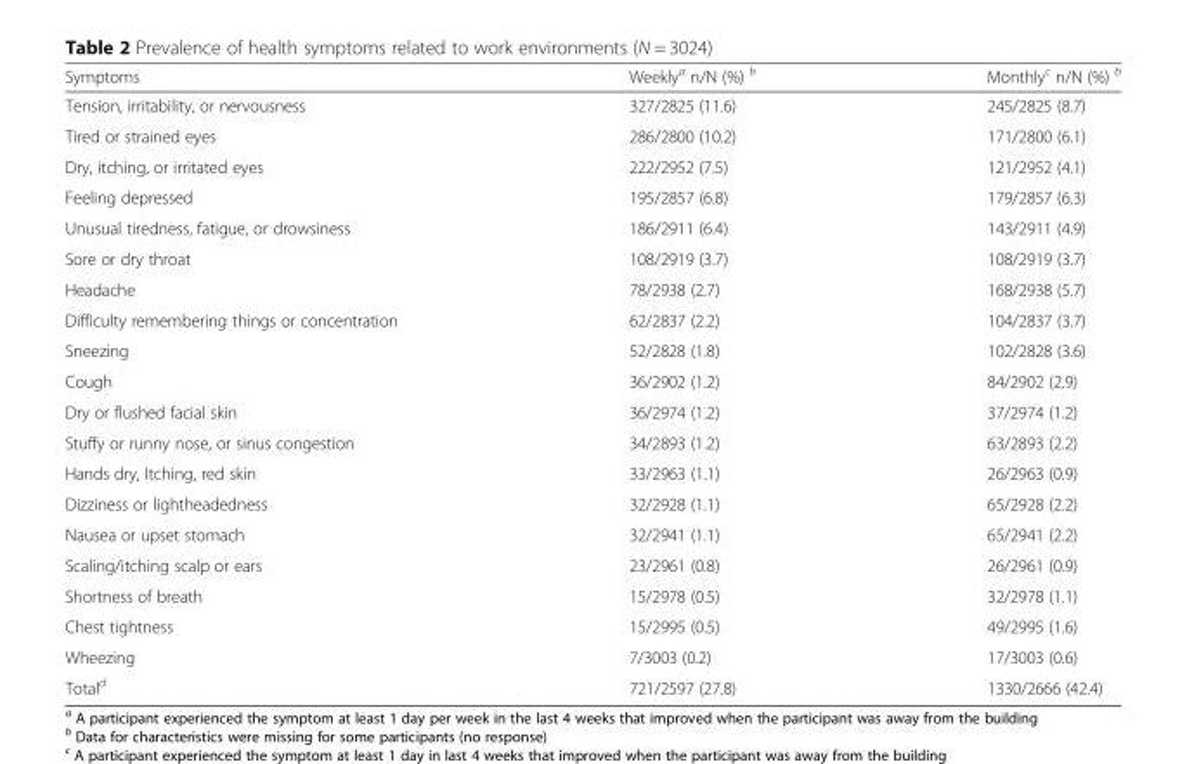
<table><thead><tr><td>Symptoms</td><td>Weekly<sup>a</sup> n/N (%) <sup>b</sup></td><td>Monthly<sup>c</sup> n/N (%) <sup>b</sup></td></tr></thead><tbody><tr><td>Tension, irritability, or nervousness</td><td>327/2825 (11.6)</td><td>245/2825 (8.7)</td></tr><tr><td>Tired or strained eyes</td><td>286/2800 (10.2)</td><td>171/2800 (6.1)</td></tr><tr><td>Dry, itching, or irritated eyes</td><td>222/2952 (7.5)</td><td>121/2952 (4.1)</td></tr><tr><td>Feeling depressed</td><td>195/2857 (6.8)</td><td>179/2857 (6.3)</td></tr><tr><td>Unusual tiredness, fatigue, or drowsiness</td><td>186/2911 (6.4)</td><td>143/2911 (4.9)</td></tr><tr><td>Sore or dry throat</td><td>108/2919 (3.7)</td><td>108/2919 (3.7)</td></tr><tr><td>Headache</td><td>78/2938 (2.7)</td><td>168/2938 (5.7)</td></tr><tr><td>Difficulty remembering things or concentration</td><td>62/2837 (2.2)</td><td>104/2837 (3.7)</td></tr><tr><td>Sneezing</td><td>52/2828 (1.8)</td><td>102/2828 (3.6)</td></tr><tr><td>Cough</td><td>36/2902 (1.2)</td><td>84/2902 (2.9)</td></tr><tr><td>Dry or flushed facial skin</td><td>36/2974 (1.2)</td><td>37/2974 (1.2)</td></tr><tr><td>Stuffy or runny nose, or sinus congestion</td><td>34/2893 (1.2)</td><td>63/2893 (2.2)</td></tr><tr><td>Hands dry, Itching, red skin</td><td>33/2963 (1.1)</td><td>26/2963 (0.9)</td></tr><tr><td>Dizziness or lightheadedness</td><td>32/2928 (1.1)</td><td>65/2928 (2.2)</td></tr><tr><td>Nausea or upset stomach</td><td>32/2941 (1.1)</td><td>65/2941 (2.2)</td></tr><tr><td>Scaling/itching scalp or ears</td><td>23/2961 (0.8)</td><td>26/2961 (0.9)</td></tr><tr><td>Shortness of breath</td><td>15/2978 (0.5)</td><td>32/2978 (1.1)</td></tr><tr><td>Chest tightness</td><td>15/2995 (0.5)</td><td>49/2995 (1.6)</td></tr><tr><td>Wheezing</td><td>7/3003 (0.2)</td><td>17/3003 (0.6)</td></tr><tr><td>Total<sup>d</sup></td><td>721/2597 (27.8)</td><td>1330/2666 (42.4)</td></tr></tbody></table>